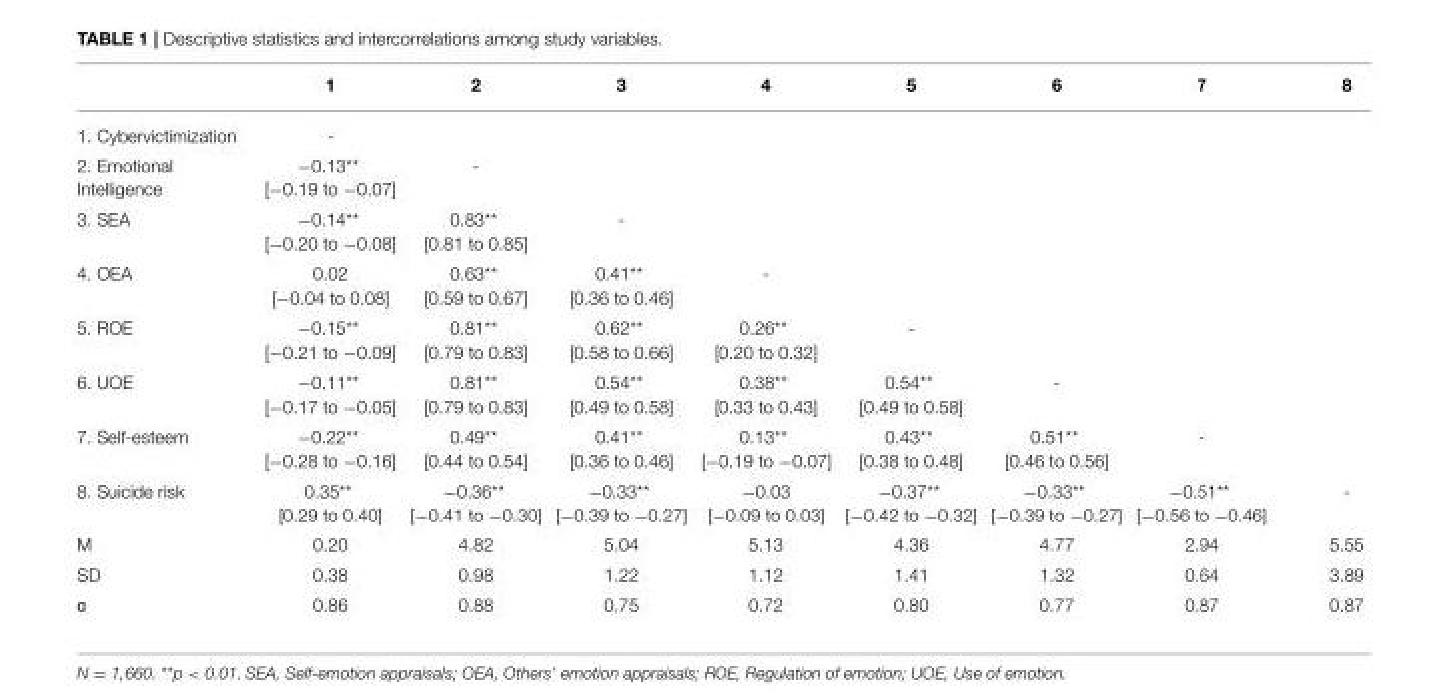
<table><thead><tr><td></td><td>1</td><td>2</td><td>3</td><td>4</td><td>5</td><td>6</td><td>7</td><td>8</td></tr></thead><tbody><tr><td>1. Cybervictimization</td><td>-</td><td></td><td></td><td></td><td></td><td></td><td></td><td></td></tr><tr><td>2. Emotional Intelligence</td><td>−0.13** [−0.19 to −0.07]</td><td>-</td><td></td><td></td><td></td><td></td><td></td><td></td></tr><tr><td>3. SEA</td><td>−0.14** [−0.20 to −0.08]</td><td>0.83** [0.81 to 0.85]</td><td>-</td><td></td><td></td><td></td><td></td><td></td></tr><tr><td>4. OEA</td><td>0.02 [−0.04 to 0.08]</td><td>0.63** [0.59 to 0.67]</td><td>0.41** [0.36 to 0.46]</td><td>-</td><td></td><td></td><td></td><td></td></tr><tr><td>5. ROE</td><td>−0.15** [−0.21 to −0.09]</td><td>0.81** [0.79 to 0.83]</td><td>0.62** [0.58 to 0.66]</td><td>0.26** [0.20 to 0.32]</td><td>-</td><td></td><td></td><td></td></tr><tr><td>6. UOE</td><td>−0.11** [−0.17 to −0.05]</td><td>0.81** [0.79 to 0.83]</td><td>0.54** [0.49 to 0.58]</td><td>0.38** [0.33 to 0.43]</td><td>0.54** [0.49 to 0.58]</td><td>-</td><td></td><td></td></tr><tr><td>7. Self-esteem</td><td>−0.22** [−0.28 to −0.16]</td><td>0.49** [0.44 to 0.54]</td><td>0.41** [0.36 to 0.46]</td><td>0.13** [−0.19 to −0.07]</td><td>0.43** [0.38 to 0.48]</td><td>0.51** [0.46 to 0.56]</td><td>-</td><td></td></tr><tr><td>8. Suicide risk</td><td>0.35** [0.29 to 0.40]</td><td>−0.36** [−0.41 to −0.30]</td><td>−0.33** [−0.39 to −0.27]</td><td>−0.03 [−0.09 to 0.03]</td><td>−0.37** [−0.42 to −0.32]</td><td>−0.33** [−0.39 to −0.27]</td><td>−0.51** [−0.56 to −0.46]</td><td>-</td></tr><tr><td>M</td><td>0.20</td><td>4.82</td><td>5.04</td><td>5.13</td><td>4.36</td><td>4.77</td><td>2.94</td><td>5.55</td></tr><tr><td>SD</td><td>0.38</td><td>0.98</td><td>1.22</td><td>1.12</td><td>1.41</td><td>1.32</td><td>0.64</td><td>3.89</td></tr><tr><td>α</td><td>0.86</td><td>0.88</td><td>0.75</td><td>0.72</td><td>0.80</td><td>0.77</td><td>0.87</td><td>0.87</td></tr></tbody></table>